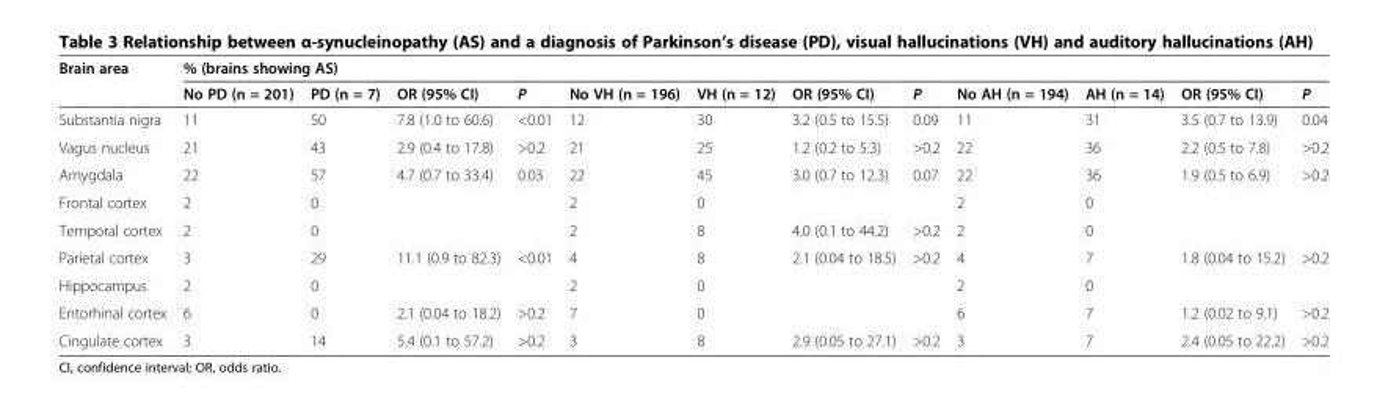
<table><thead><tr><td rowspan="2">Brain area</td><td colspan="12">% (brains showing AS)</td></tr><tr><td>No PD (n = 201)</td><td>PD (n = 7)</td><td>OR (95% CI)</td><td>P</td><td>No VH (n = 196)</td><td>VH (n = 12)</td><td>OR (95% CI)</td><td>P</td><td>No AH (n = 194)</td><td>AH (n = 14)</td><td>OR (95% CI)</td><td>P</td></tr></thead><tbody><tr><td>Substantia nigra</td><td>11</td><td>50</td><td>7.8 (1.0 to 60.6)</td><td>&lt;0.01</td><td>12</td><td>30</td><td>3.2 (0.5 to 15.5)</td><td>0.09</td><td>11</td><td>31</td><td>3.5 (0.7 to 13.9)</td><td>0.04</td></tr><tr><td>Vagus nucleus</td><td>21</td><td>43</td><td>2.9 (0.4 to 17.8)</td><td>&gt;0.2</td><td>21</td><td>25</td><td>1.2 (0.2 to 5.3)</td><td>&gt;0.2</td><td>22</td><td>36</td><td>2.2 (0.5 to 7.8)</td><td>&gt;0.2</td></tr><tr><td>Amygdala</td><td>22</td><td>57</td><td>4.7 (0.7 to 33.4)</td><td>0.03</td><td>22</td><td>45</td><td>3.0 (0.7 to 12.3)</td><td>0.07</td><td>22</td><td>36</td><td>1.9 (0.5 to 6.9)</td><td>&gt;0.2</td></tr><tr><td>Frontal cortex</td><td>2</td><td>0</td><td></td><td></td><td>2</td><td>0</td><td></td><td></td><td>2</td><td>0</td><td></td><td></td></tr><tr><td>Temporal cortex</td><td>2</td><td>0</td><td></td><td></td><td>2</td><td>8</td><td>4.0 (0.1 to 44.2)</td><td>&gt;0.2</td><td>2</td><td>0</td><td></td><td></td></tr><tr><td>Parietal cortex</td><td>3</td><td>29</td><td>11.1 (0.9 to 82.3)</td><td>&lt;0.01</td><td>4</td><td>8</td><td>2.1 (0.04 to 18.5)</td><td>&gt;0.2</td><td>4</td><td>7</td><td>1.8 (0.04 to 15.2)</td><td>&gt;0.2</td></tr><tr><td>Hippocampus</td><td>2</td><td>0</td><td></td><td></td><td>2</td><td>0</td><td></td><td></td><td>2</td><td>0</td><td></td><td></td></tr><tr><td>Entorhinal cortex</td><td>6</td><td>0</td><td>2.1 (0.04 to 18.2)</td><td>&gt;0.2</td><td>7</td><td>0</td><td></td><td></td><td>6</td><td>7</td><td>1.2 (0.02 to 9.1)</td><td>&gt;0.2</td></tr><tr><td>Cingulate cortex</td><td>3</td><td>14</td><td>5.4 (0.1 to 57.2)</td><td>&gt;0.2</td><td>3</td><td>8</td><td>2.9 (0.05 to 27.1)</td><td>&gt;0.2</td><td>3</td><td>7</td><td>2.4 (0.05 to 22.2)</td><td>&gt;0.2</td></tr></tbody></table>